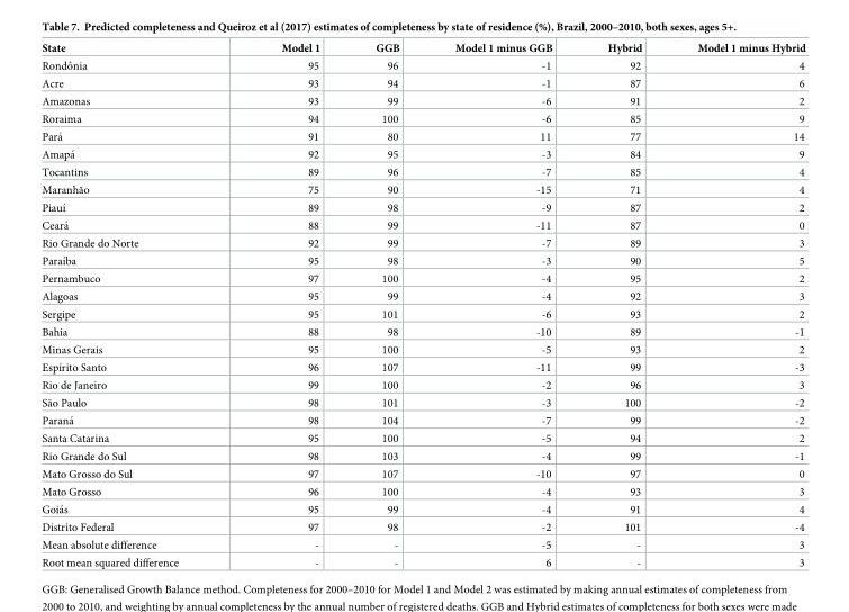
<table><thead><tr><td>State</td><td>Model 1</td><td>GGB</td><td>Model 1 minus GGB</td><td>Hybrid</td><td>Model 1 minus Hybrid</td></tr></thead><tbody><tr><td>Rondoˆnia</td><td>95</td><td>96</td><td>-1</td><td>92</td><td>4</td></tr><tr><td>Acre</td><td>93</td><td>94</td><td>-1</td><td>87</td><td>6</td></tr><tr><td>Amazonas</td><td>93</td><td>99</td><td>-6</td><td>91</td><td>2</td></tr><tr><td>Roraima</td><td>94</td><td>100</td><td>-6</td><td>85</td><td>9</td></tr><tr><td>Para´</td><td>91</td><td>80</td><td>11</td><td>77</td><td>14</td></tr><tr><td>Amapa´</td><td>92</td><td>95</td><td>-3</td><td>84</td><td>9</td></tr><tr><td>Tocantins</td><td>89</td><td>96</td><td>-7</td><td>85</td><td>4</td></tr><tr><td>Maranhão</td><td>75</td><td>90</td><td>-15</td><td>71</td><td>4</td></tr><tr><td>Piauı´</td><td>89</td><td>98</td><td>-9</td><td>87</td><td>2</td></tr><tr><td>Ceara´</td><td>88</td><td>99</td><td>-11</td><td>87</td><td>0</td></tr><tr><td>Rio Grande do Norte</td><td>92</td><td>99</td><td>-7</td><td>89</td><td>3</td></tr><tr><td>Paraı´ba</td><td>95</td><td>98</td><td>-3</td><td>90</td><td>5</td></tr><tr><td>Pernambuco</td><td>97</td><td>100</td><td>-4</td><td>95</td><td>2</td></tr><tr><td>Alagoas</td><td>95</td><td>99</td><td>-4</td><td>92</td><td>3</td></tr><tr><td>Sergipe</td><td>95</td><td>101</td><td>-6</td><td>93</td><td>2</td></tr><tr><td>Bahia</td><td>88</td><td>98</td><td>-10</td><td>89</td><td>-1</td></tr><tr><td>Minas Gerais</td><td>95</td><td>100</td><td>-5</td><td>93</td><td>2</td></tr><tr><td>Espı´rito Santo</td><td>96</td><td>107</td><td>-11</td><td>99</td><td>-3</td></tr><tr><td>Rio de Janeiro</td><td>99</td><td>100</td><td>-2</td><td>96</td><td>3</td></tr><tr><td>São Paulo</td><td>98</td><td>101</td><td>-3</td><td>100</td><td>-2</td></tr><tr><td>Parana´</td><td>98</td><td>104</td><td>-7</td><td>99</td><td>-2</td></tr><tr><td>Santa Catarina</td><td>95</td><td>100</td><td>-5</td><td>94</td><td>2</td></tr><tr><td>Rio Grande do Sul</td><td>98</td><td>103</td><td>-4</td><td>99</td><td>-1</td></tr><tr><td>Mato Grosso do Sul</td><td>97</td><td>107</td><td>-10</td><td>97</td><td>0</td></tr><tr><td>Mato Grosso</td><td>96</td><td>100</td><td>-4</td><td>93</td><td>3</td></tr><tr><td>Goia´s</td><td>95</td><td>99</td><td>-4</td><td>91</td><td>4</td></tr><tr><td>Distrito Federal</td><td>97</td><td>98</td><td>-2</td><td>101</td><td>-4</td></tr><tr><td>Mean absolute difference</td><td>-</td><td>-</td><td>-5</td><td>-</td><td>3</td></tr><tr><td>Root mean squared difference</td><td>-</td><td>-</td><td>6</td><td>-</td><td>3</td></tr></tbody></table>